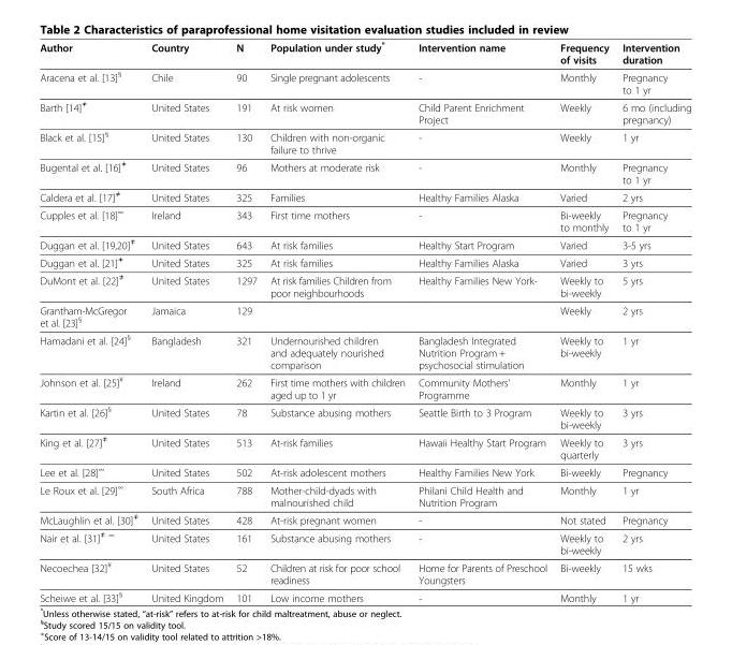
<table><thead><tr><td>Author</td><td>Country</td><td>N</td><td>Population under study*</td><td>Intervention name</td><td>Frequency of visits</td><td>Intervention duration</td></tr></thead><tbody><tr><td>Aracena et al. [13]<sup>§</sup></td><td>Chile</td><td>90</td><td>Single pregnant adolescents</td><td>-</td><td>Monthly</td><td>Pregnancy to 1 yr</td></tr><tr><td>Barth [14]<sup>≠</sup></td><td>United States</td><td>191</td><td>At risk women</td><td>Child Parent Enrichment Project</td><td>Weekly</td><td>6 mo (including pregnancy)</td></tr><tr><td>Black et al. [15]<sup>§</sup></td><td>United States</td><td>130</td><td>Children with non-organic failure to thrive</td><td>-</td><td>Weekly</td><td>1 yr</td></tr><tr><td>Bugental et al. [16]<sup>≠</sup></td><td>United States</td><td>96</td><td>Mothers at moderate risk</td><td>-</td><td>Monthly</td><td>Pregnancy to 1 yr</td></tr><tr><td>Caldera et al. [17]<sup>≠</sup></td><td>United States</td><td>325</td><td>Families</td><td>Healthy Families Alaska</td><td>Varied</td><td>2 yrs</td></tr><tr><td>Cupples et al. [18]<sup>∞</sup></td><td>Ireland</td><td>343</td><td>First time mothers</td><td>-</td><td>Bi-weekly to monthly</td><td>Pregnancy to 1 yr</td></tr><tr><td>Duggan et al. [19,20]<sup>≠</sup></td><td>United States</td><td>643</td><td>At risk families</td><td>Healthy Start Program</td><td>Varied</td><td>3-5 yrs</td></tr><tr><td>Duggan et al. [21]<sup>≠</sup></td><td>United States</td><td>325</td><td>At risk families</td><td>Healthy Families Alaska</td><td>Varied</td><td>3 yrs</td></tr><tr><td>DuMont et al. [22]<sup>≠</sup></td><td>United States</td><td>1297</td><td>At risk families Children from poor neighbourhoods</td><td>Healthy Families New York-</td><td>Weekly to bi-weekly</td><td>5 yrs</td></tr><tr><td>Grantham-McGregor et al. [23]<sup>§</sup></td><td>Jamaica</td><td>129</td><td></td><td></td><td>Weekly</td><td>2 yrs</td></tr><tr><td>Hamadani et al. [24]<sup>§</sup></td><td>Bangladesh</td><td>321</td><td>Undernourished children and adequately nourished comparison</td><td>Bangladesh Integrated Nutrition Program + psychosocial stimulation</td><td>Weekly to bi-weekly</td><td>1 yr</td></tr><tr><td>Johnson et al. [25]<sup>¥</sup></td><td>Ireland</td><td>262</td><td>First time mothers with children aged up to 1 yr</td><td>Community Mothers’ Programme</td><td>Monthly</td><td>1 yr</td></tr><tr><td>Kartin et al. [26]<sup>§</sup></td><td>United States</td><td>78</td><td>Substance abusing mothers</td><td>Seattle Birth to 3 Program</td><td>Weekly to bi-weekly</td><td>3 yrs</td></tr><tr><td>King et al. [27]<sup>≠</sup></td><td>United States</td><td>513</td><td>At-risk families</td><td>Hawaii Healthy Start Program</td><td>Weekly to quarterly</td><td>3 yrs</td></tr><tr><td>Lee et al. [28]<sup>∞</sup></td><td>United States</td><td>502</td><td>At-risk adolescent mothers</td><td>Healthy Families New York</td><td>Bi-weekly</td><td>Pregnancy</td></tr><tr><td>Le Roux et al. [29]<sup>∞</sup></td><td>South Africa</td><td>788</td><td>Mother-child-dyads with malnourished child</td><td>Philani Child Health and Nutrition Program</td><td>Monthly</td><td>1 yr</td></tr><tr><td>McLaughlin et al. [30]<sup>≠</sup></td><td>United States</td><td>428</td><td>At-risk pregnant women</td><td>-</td><td>Not stated</td><td>Pregnancy</td></tr><tr><td>Nair et al. [31]<sup>≠ ∞</sup></td><td>United States</td><td>161</td><td>Substance abusing mothers</td><td>-</td><td>Weekly to bi-weekly</td><td>2 yrs</td></tr><tr><td>Necoechea [32]<sup>¥</sup></td><td>United States</td><td>52</td><td>Children at risk for poor school readiness</td><td>Home for Parents of Preschool Youngsters</td><td>Bi-weekly</td><td>15 wks</td></tr><tr><td>Scheiwe et al. [33]<sup>§</sup></td><td>United Kingdom</td><td>101</td><td>Low income mothers</td><td>-</td><td>Monthly</td><td>1 yr</td></tr></tbody></table>